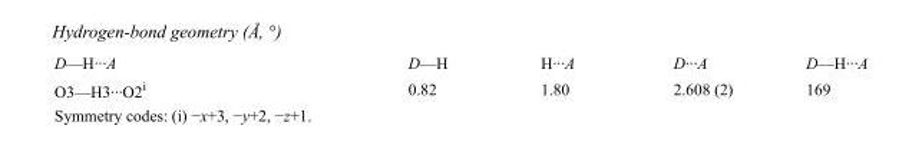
<table><tbody><tr><td>D—H···A</td><td>D—H</td><td>H···A</td><td>D···A</td><td>D—H···A</td></tr><tr><td>O3—H3···O2<sup>i</sup></td><td>0.82</td><td>1.80</td><td>2.608 (2)</td><td>169</td></tr></tbody></table>